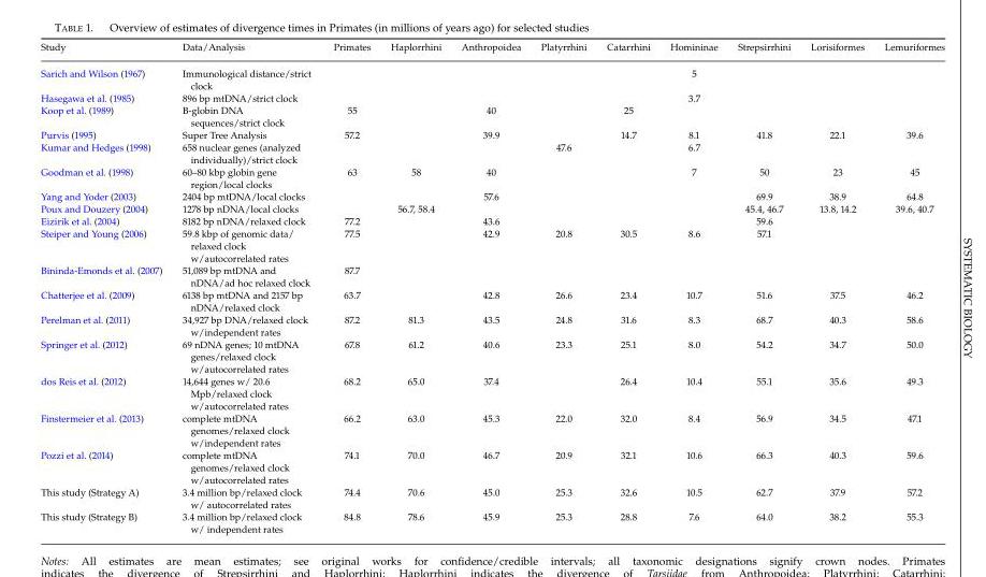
<table><thead><tr><td>Study</td><td>Data/Analysis</td><td>Primates</td><td>Haplorrhini</td><td>Anthropoidea</td><td>Platyrrhini</td><td>Catarrhini</td><td>Homininae</td><td>Strepsirrhini</td><td>Lorisiformes</td><td>Lemuriformes</td></tr></thead><tbody><tr><td>Sarich and Wilson (1967)</td><td>Immunological distance/strict clock</td><td></td><td></td><td></td><td></td><td></td><td>5</td><td></td><td></td><td></td></tr><tr><td>Hasegawa et al. (1985)</td><td>896 bp mtDNA/strict clock</td><td></td><td></td><td></td><td></td><td></td><td>3.7</td><td></td><td></td><td></td></tr><tr><td>Koop et al. (1989)</td><td>B-globin DNA sequences/strict clock</td><td>55</td><td></td><td>40</td><td></td><td>25</td><td></td><td></td><td></td><td></td></tr><tr><td>Purvis (1995)</td><td>Super Tree Analysis</td><td>57.2</td><td></td><td>39.9</td><td></td><td>14.7</td><td>8.1</td><td>41.8</td><td>22.1</td><td>39.6</td></tr><tr><td>Kumar and Hedges (1998)</td><td>658 nuclear genes (analyzed individually)/strict clock</td><td></td><td></td><td></td><td>47.6</td><td></td><td>6.7</td><td></td><td></td><td></td></tr><tr><td>Goodman et al. (1998)</td><td>60–80 kbp globin gene region/local clocks</td><td>63</td><td>58</td><td>40</td><td></td><td></td><td>7</td><td>50</td><td>23</td><td>45</td></tr><tr><td>Yang and Yoder (2003)</td><td>2404 bp mtDNA/local clocks</td><td></td><td></td><td>57.6</td><td></td><td></td><td></td><td>69.9</td><td>38.9</td><td>64.8</td></tr><tr><td>Poux and Douzery (2004)</td><td>1278 bp nDNA/local clocks</td><td></td><td>56.7, 58.4</td><td></td><td></td><td></td><td></td><td>45.4, 46.7</td><td>13.8, 14.2</td><td>39.6, 40.7</td></tr><tr><td>Eizirik et al. (2004)</td><td>8182 bp nDNA/relaxed clock</td><td>77.2</td><td></td><td>43.6</td><td></td><td></td><td></td><td>59.6</td><td></td><td></td></tr><tr><td>Steiper and Young (2006)</td><td>59.8 kbp of genomic data/ relaxed clock w/autocorrelated rates</td><td>77.5</td><td></td><td>42.9</td><td>20.8</td><td>30.5</td><td>8.6</td><td>57.1</td><td></td><td></td></tr><tr><td>Bininda-Emonds et al. (2007)</td><td>51,089 bp mtDNA and nDNA/ad hoc relaxed clock</td><td>87.7</td><td></td><td></td><td></td><td></td><td></td><td></td><td></td><td></td></tr><tr><td>Chatterjee et al. (2009)</td><td>6138 bp mtDNA and 2157 bp nDNA/relaxed clock</td><td>63.7</td><td></td><td>42.8</td><td>26.6</td><td>23.4</td><td>10.7</td><td>51.6</td><td>37.5</td><td>46.2</td></tr><tr><td>Perelman et al. (2011)</td><td>34,927 bp DNA/relaxed clock w/independent rates</td><td>87.2</td><td>81.3</td><td>43.5</td><td>24.8</td><td>31.6</td><td>8.3</td><td>68.7</td><td>40.3</td><td>58.6</td></tr><tr><td>Springer et al. (2012)</td><td>69 nDNA genes; 10 mtDNA genes/relaxed clock w/autocorrelated rates</td><td>67.8</td><td>61.2</td><td>40.6</td><td>23.3</td><td>25.1</td><td>8.0</td><td>54.2</td><td>34.7</td><td>50.0</td></tr><tr><td>dos Reis et al. (2012)</td><td>14,644 genes w/ 20.6 Mpb/relaxed clock w/autocorrelated rates</td><td>68.2</td><td>65.0</td><td>37.4</td><td></td><td>26.4</td><td>10.4</td><td>55.1</td><td>35.6</td><td>49.3</td></tr><tr><td>Finstermeier et al. (2013)</td><td>complete mtDNA genomes/relaxed clock w/independent rates</td><td>66.2</td><td>63.0</td><td>45.3</td><td>22.0</td><td>32.0</td><td>8.4</td><td>56.9</td><td>34.5</td><td>47.1</td></tr><tr><td>Pozzi et al. (2014)</td><td>complete mtDNA genomes/relaxed clock w/autocorrelated rates</td><td>74.1</td><td>70.0</td><td>46.7</td><td>20.9</td><td>32.1</td><td>10.6</td><td>66.3</td><td>40.3</td><td>59.6</td></tr><tr><td>This study (Strategy A)</td><td>3.4 million bp/relaxed clock w/ autocorrelated rates</td><td>74.4</td><td>70.6</td><td>45.0</td><td>25.3</td><td>32.6</td><td>10.5</td><td>62.7</td><td>37.9</td><td>57.2</td></tr><tr><td>This study (Strategy B)</td><td>3.4 million bp/relaxed clock w/ independent rates</td><td>84.8</td><td>78.6</td><td>45.9</td><td>25.3</td><td>28.8</td><td>7.6</td><td>64.0</td><td>38.2</td><td>55.3</td></tr></tbody></table>